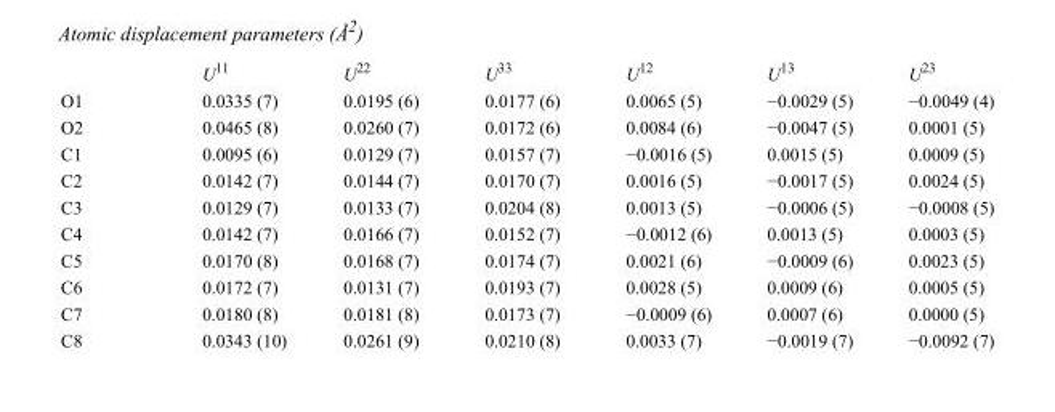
<table><thead><tr><td></td><td>U<sup>11</sup></td><td>U<sup>22</sup></td><td>U<sup>33</sup></td><td>U<sup>12</sup></td><td>U<sup>13</sup></td><td>U<sup>23</sup></td></tr></thead><tbody><tr><td>O1</td><td>0.0335 (7)</td><td>0.0195 (6)</td><td>0.0177 (6)</td><td>0.0065 (5)</td><td>−0.0029 (5)</td><td>−0.0049 (4)</td></tr><tr><td>O2</td><td>0.0465 (8)</td><td>0.0260 (7)</td><td>0.0172 (6)</td><td>0.0084 (6)</td><td>−0.0047 (5)</td><td>0.0001 (5)</td></tr><tr><td>C1</td><td>0.0095 (6)</td><td>0.0129 (7)</td><td>0.0157 (7)</td><td>−0.0016 (5)</td><td>0.0015 (5)</td><td>0.0009 (5)</td></tr><tr><td>C2</td><td>0.0142 (7)</td><td>0.0144 (7)</td><td>0.0170 (7)</td><td>0.0016 (5)</td><td>−0.0017 (5)</td><td>0.0024 (5)</td></tr><tr><td>C3</td><td>0.0129 (7)</td><td>0.0133 (7)</td><td>0.0204 (8)</td><td>0.0013 (5)</td><td>−0.0006 (5)</td><td>−0.0008 (5)</td></tr><tr><td>C4</td><td>0.0142 (7)</td><td>0.0166 (7)</td><td>0.0152 (7)</td><td>−0.0012 (6)</td><td>0.0013 (5)</td><td>0.0003 (5)</td></tr><tr><td>C5</td><td>0.0170 (8)</td><td>0.0168 (7)</td><td>0.0174 (7)</td><td>0.0021 (6)</td><td>−0.0009 (6)</td><td>0.0023 (5)</td></tr><tr><td>C6</td><td>0.0172 (7)</td><td>0.0131 (7)</td><td>0.0193 (7)</td><td>0.0028 (5)</td><td>0.0009 (6)</td><td>0.0005 (5)</td></tr><tr><td>C7</td><td>0.0180 (8)</td><td>0.0181 (8)</td><td>0.0173 (7)</td><td>−0.0009 (6)</td><td>0.0007 (6)</td><td>0.0000 (5)</td></tr><tr><td>C8</td><td>0.0343 (10)</td><td>0.0261 (9)</td><td>0.0210 (8)</td><td>0.0033 (7)</td><td>−0.0019 (7)</td><td>−0.0092 (7)</td></tr></tbody></table>